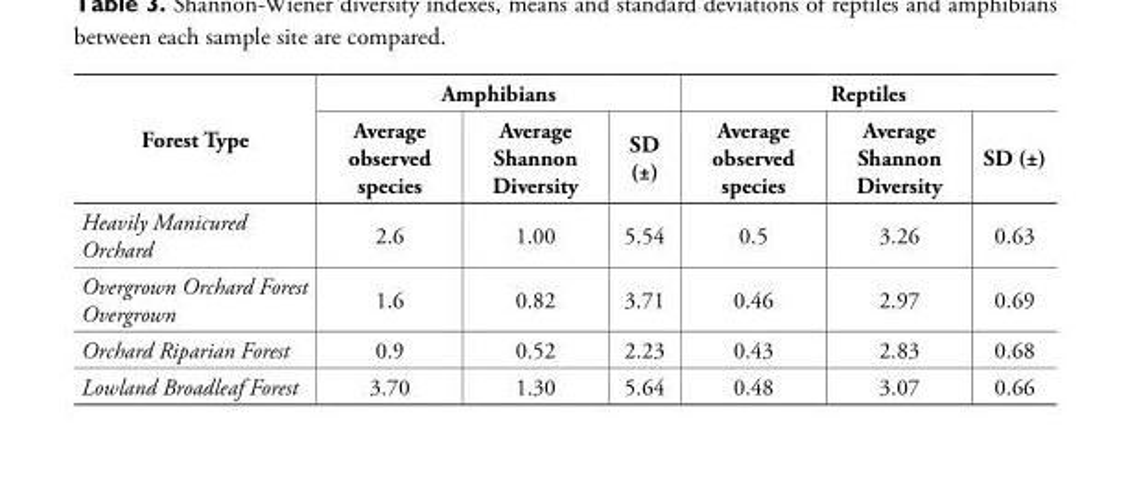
<table><tbody><tr><td rowspan="2">Forest Type</td><td colspan="3">Amphibians</td><td colspan="3">Reptiles</td></tr><tr><td>Average observed species</td><td>Average Shannon Diversity</td><td>SD (±)</td><td>Average observed species</td><td>Average Shannon Diversity</td><td>SD (±)</td></tr><tr><td>Heavily Manicured Orchard</td><td>2.6</td><td>1.00</td><td>5.54</td><td>0.5</td><td>3.26</td><td>0.63</td></tr><tr><td>Overgrown Orchard Forest Overgrown</td><td>1.6</td><td>0.82</td><td>3.71</td><td>0.46</td><td>2.97</td><td>0.69</td></tr><tr><td>Orchard Riparian Forest</td><td>0.9</td><td>0.52</td><td>2.23</td><td>0.43</td><td>2.83</td><td>0.68</td></tr><tr><td>Lowland Broadleaf Forest</td><td>3.70</td><td>1.30</td><td>5.64</td><td>0.48</td><td>3.07</td><td>0.66</td></tr></tbody></table>